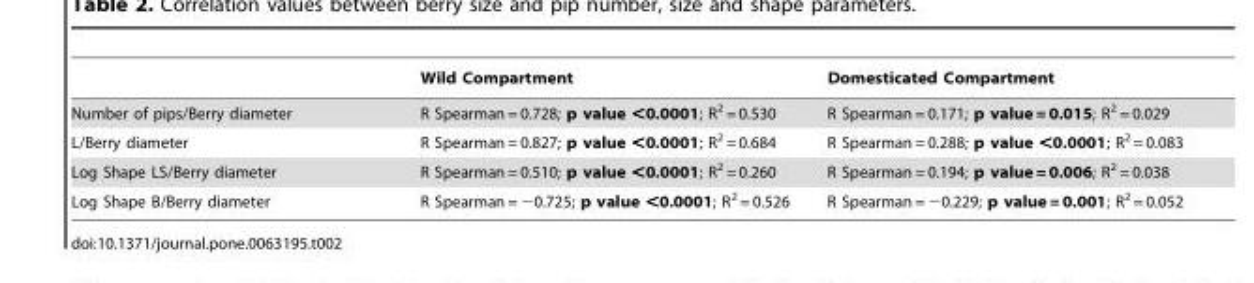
<table><thead><tr><td></td><td>Wild Compartment</td><td>Domesticated Compartment</td></tr></thead><tbody><tr><td>Number of pips/Berry diameter</td><td>R Spearman = 0.728; p value &lt;0.0001; R<sup>2</sup> = 0.530</td><td>R Spearman = 0.171; p value = 0.015; R<sup>2</sup> = 0.029</td></tr><tr><td>L/Berry diameter</td><td>R Spearman = 0.827; p value &lt;0.0001; R<sup>2</sup> = 0.684</td><td>R Spearman = 0.288; p value &lt;0.0001; R<sup>2</sup> = 0.083</td></tr><tr><td>Log Shape LS/Berry diameter</td><td>R Spearman = 0.510; p value &lt;0.0001; R<sup>2</sup> = 0.260</td><td>R Spearman = 0.194; p value = 0.006; R<sup>2</sup> = 0.038</td></tr><tr><td>Log Shape B/Berry diameter</td><td>R Spearman = −0.725; p value &lt;0.0001; R<sup>2</sup> = 0.526</td><td>R Spearman = −0.229; p value = 0.001; R<sup>2</sup> = 0.052</td></tr></tbody></table>